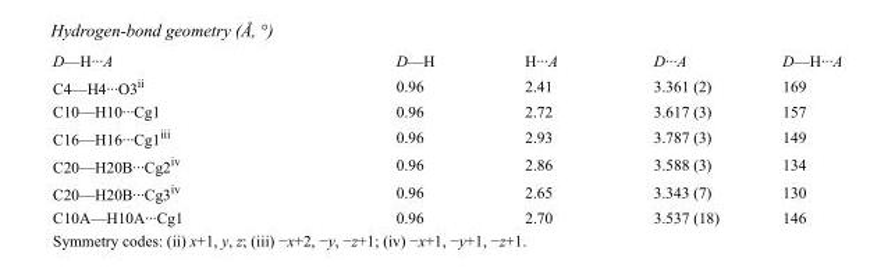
<table><tbody><tr><td>D—H···A</td><td>D—H</td><td>H···A</td><td>D···A</td><td>D—H···A</td></tr><tr><td>C4—H4···O3<sup>ii</sup></td><td>0.96</td><td>2.41</td><td>3.361 (2)</td><td>169</td></tr><tr><td>C10—H10···Cg1</td><td>0.96</td><td>2.72</td><td>3.617 (3)</td><td>157</td></tr><tr><td>C16—H16···Cg1<sup>iii</sup></td><td>0.96</td><td>2.93</td><td>3.787 (3)</td><td>149</td></tr><tr><td>C20—H20B···Cg2<sup>iv</sup></td><td>0.96</td><td>2.86</td><td>3.588 (3)</td><td>134</td></tr><tr><td>C20—H20B···Cg3<sup>iv</sup></td><td>0.96</td><td>2.65</td><td>3.343 (7)</td><td>130</td></tr><tr><td>C10A—H10A···Cg1</td><td>0.96</td><td>2.70</td><td>3.537 (18)</td><td>146</td></tr></tbody></table>